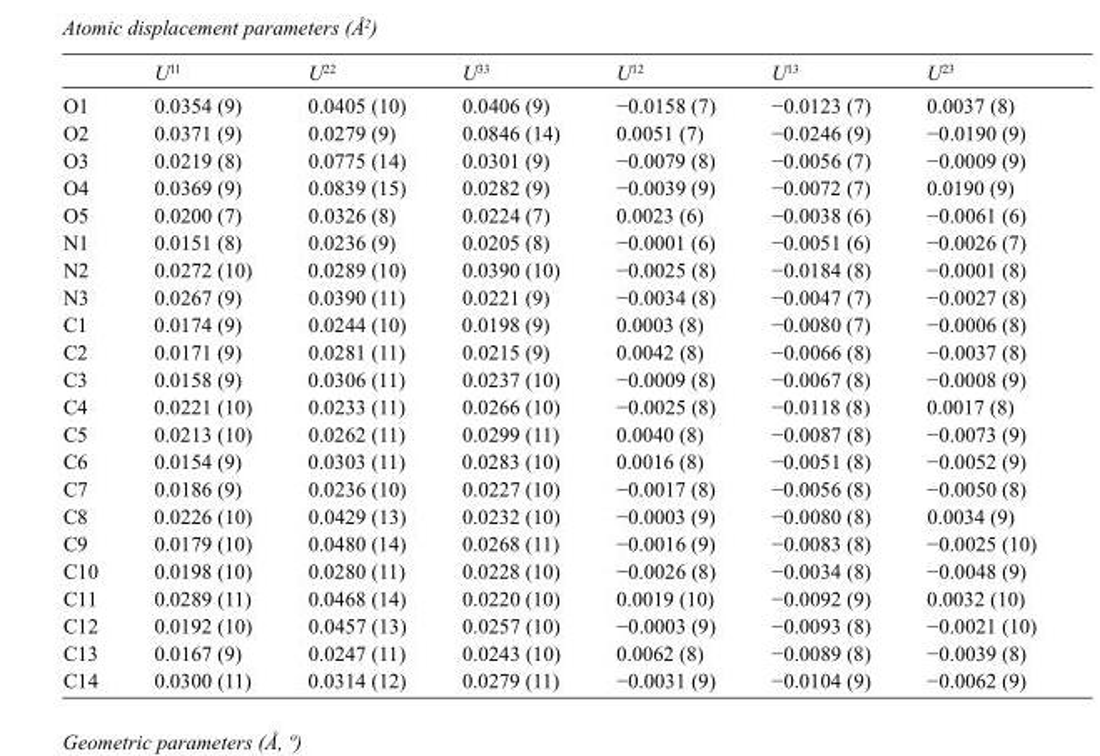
<table><thead><tr><td></td><td>U<sup>11</sup></td><td>U<sup>22</sup></td><td>U<sup>33</sup></td><td>U<sup>12</sup></td><td>U<sup>13</sup></td><td>U<sup>23</sup></td></tr></thead><tbody><tr><td>O1</td><td>0.0354 (9)</td><td>0.0405 (10)</td><td>0.0406 (9)</td><td>−0.0158 (7)</td><td>−0.0123 (7)</td><td>0.0037 (8)</td></tr><tr><td>O2</td><td>0.0371 (9)</td><td>0.0279 (9)</td><td>0.0846 (14)</td><td>0.0051 (7)</td><td>−0.0246 (9)</td><td>−0.0190 (9)</td></tr><tr><td>O3</td><td>0.0219 (8)</td><td>0.0775 (14)</td><td>0.0301 (9)</td><td>−0.0079 (8)</td><td>−0.0056 (7)</td><td>−0.0009 (9)</td></tr><tr><td>O4</td><td>0.0369 (9)</td><td>0.0839 (15)</td><td>0.0282 (9)</td><td>−0.0039 (9)</td><td>−0.0072 (7)</td><td>0.0190 (9)</td></tr><tr><td>O5</td><td>0.0200 (7)</td><td>0.0326 (8)</td><td>0.0224 (7)</td><td>0.0023 (6)</td><td>−0.0038 (6)</td><td>−0.0061 (6)</td></tr><tr><td>N1</td><td>0.0151 (8)</td><td>0.0236 (9)</td><td>0.0205 (8)</td><td>−0.0001 (6)</td><td>−0.0051 (6)</td><td>−0.0026 (7)</td></tr><tr><td>N2</td><td>0.0272 (10)</td><td>0.0289 (10)</td><td>0.0390 (10)</td><td>−0.0025 (8)</td><td>−0.0184 (8)</td><td>−0.0001 (8)</td></tr><tr><td>N3</td><td>0.0267 (9)</td><td>0.0390 (11)</td><td>0.0221 (9)</td><td>−0.0034 (8)</td><td>−0.0047 (7)</td><td>−0.0027 (8)</td></tr><tr><td>C1</td><td>0.0174 (9)</td><td>0.0244 (10)</td><td>0.0198 (9)</td><td>0.0003 (8)</td><td>−0.0080 (7)</td><td>−0.0006 (8)</td></tr><tr><td>C2</td><td>0.0171 (9)</td><td>0.0281 (11)</td><td>0.0215 (9)</td><td>0.0042 (8)</td><td>−0.0066 (8)</td><td>−0.0037 (8)</td></tr><tr><td>C3</td><td>0.0158 (9)</td><td>0.0306 (11)</td><td>0.0237 (10)</td><td>−0.0009 (8)</td><td>−0.0067 (8)</td><td>−0.0008 (9)</td></tr><tr><td>C4</td><td>0.0221 (10)</td><td>0.0233 (11)</td><td>0.0266 (10)</td><td>−0.0025 (8)</td><td>−0.0118 (8)</td><td>0.0017 (8)</td></tr><tr><td>C5</td><td>0.0213 (10)</td><td>0.0262 (11)</td><td>0.0299 (11)</td><td>0.0040 (8)</td><td>−0.0087 (8)</td><td>−0.0073 (9)</td></tr><tr><td>C6</td><td>0.0154 (9)</td><td>0.0303 (11)</td><td>0.0283 (10)</td><td>0.0016 (8)</td><td>−0.0051 (8)</td><td>−0.0052 (9)</td></tr><tr><td>C7</td><td>0.0186 (9)</td><td>0.0236 (10)</td><td>0.0227 (10)</td><td>−0.0017 (8)</td><td>−0.0056 (8)</td><td>−0.0050 (8)</td></tr><tr><td>C8</td><td>0.0226 (10)</td><td>0.0429 (13)</td><td>0.0232 (10)</td><td>−0.0003 (9)</td><td>−0.0080 (8)</td><td>0.0034 (9)</td></tr><tr><td>C9</td><td>0.0179 (10)</td><td>0.0480 (14)</td><td>0.0268 (11)</td><td>−0.0016 (9)</td><td>−0.0083 (8)</td><td>−0.0025 (10)</td></tr><tr><td>C10</td><td>0.0198 (10)</td><td>0.0280 (11)</td><td>0.0228 (10)</td><td>−0.0026 (8)</td><td>−0.0034 (8)</td><td>−0.0048 (9)</td></tr><tr><td>C11</td><td>0.0289 (11)</td><td>0.0468 (14)</td><td>0.0220 (10)</td><td>0.0019 (10)</td><td>−0.0092 (9)</td><td>0.0032 (10)</td></tr><tr><td>C12</td><td>0.0192 (10)</td><td>0.0457 (13)</td><td>0.0257 (10)</td><td>−0.0003 (9)</td><td>−0.0093 (8)</td><td>−0.0021 (10)</td></tr><tr><td>C13</td><td>0.0167 (9)</td><td>0.0247 (11)</td><td>0.0243 (10)</td><td>0.0062 (8)</td><td>−0.0089 (8)</td><td>−0.0039 (8)</td></tr><tr><td>C14</td><td>0.0300 (11)</td><td>0.0314 (12)</td><td>0.0279 (11)</td><td>−0.0031 (9)</td><td>−0.0104 (9)</td><td>−0.0062 (9)</td></tr></tbody></table>